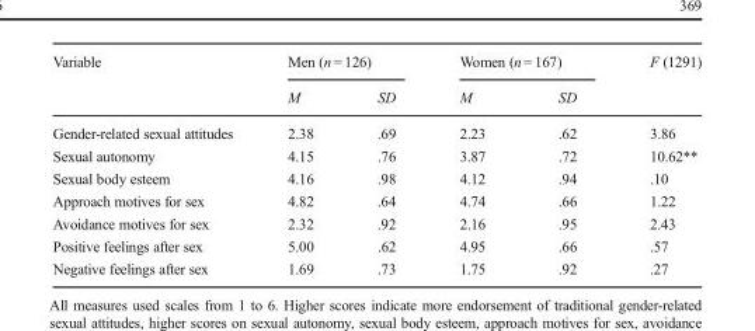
<table><thead><tr><td rowspan="2">Variable</td><td colspan="2">Men (n = 126)</td><td colspan="2">Women (n = 167)</td><td rowspan="2">F (1291)</td></tr><tr><td>M</td><td>SD</td><td>M</td><td>SD</td></tr></thead><tbody><tr><td>Gender-related sexual attitudes</td><td>2.38</td><td>.69</td><td>2.23</td><td>.62</td><td>3.86</td></tr><tr><td>Sexual autonomy</td><td>4.15</td><td>.76</td><td>3.87</td><td>.72</td><td>10.62**</td></tr><tr><td>Sexual body esteem</td><td>4.16</td><td>.98</td><td>4.12</td><td>.94</td><td>.10</td></tr><tr><td>Approach motives for sex</td><td>4.82</td><td>.64</td><td>4.74</td><td>.66</td><td>1.22</td></tr><tr><td>Avoidance motives for sex</td><td>2.32</td><td>.92</td><td>2.16</td><td>.95</td><td>2.43</td></tr><tr><td>Positive feelings after sex</td><td>5.00</td><td>.62</td><td>4.95</td><td>.66</td><td>.57</td></tr><tr><td>Negative feelings after sex</td><td>1.69</td><td>.73</td><td>1.75</td><td>.92</td><td>.27</td></tr></tbody></table>